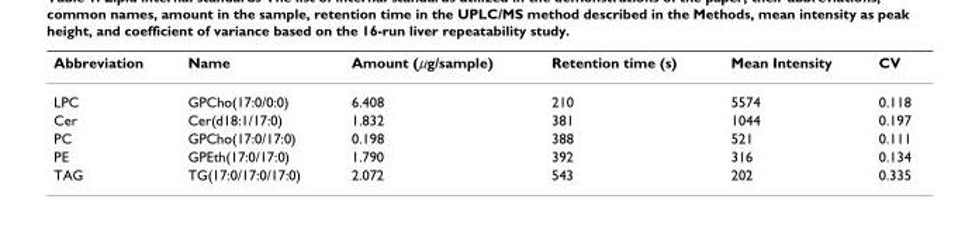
<table><thead><tr><td>Abbreviation</td><td>Name</td><td>Amount (μg/sample)</td><td>Retention time (s)</td><td>Mean Intensity</td><td>CV</td></tr></thead><tbody><tr><td>LPC</td><td>GPCho(17:0/0:0)</td><td>6.408</td><td>210</td><td>5574</td><td>0.118</td></tr><tr><td>Cer</td><td>Cer(d18:1/17:0)</td><td>1.832</td><td>381</td><td>1044</td><td>0.197</td></tr><tr><td>PC</td><td>GPCho(17:0/17:0)</td><td>0.198</td><td>388</td><td>521</td><td>0.111</td></tr><tr><td>PE</td><td>GPEth(17:0/17:0)</td><td>1.790</td><td>392</td><td>316</td><td>0.134</td></tr><tr><td>TAG</td><td>TG(17:0/17:0/17:0)</td><td>2.072</td><td>543</td><td>202</td><td>0.335</td></tr></tbody></table>